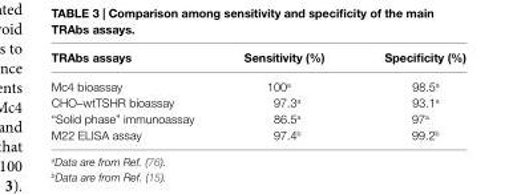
<table><thead><tr><td>TRAbs assays</td><td>Sensitivity (%)</td><td>Specificity (%)</td></tr></thead><tbody><tr><td>Mc4 bioassay</td><td>100<sup>a</sup></td><td>98.5<sup>a</sup></td></tr><tr><td>CHO–wtTSHR bioassay</td><td>97.3<sup>a</sup></td><td>93.1<sup>a</sup></td></tr><tr><td>“Solid phase” immunoassay</td><td>86.5<sup>a</sup></td><td>97<sup>a</sup></td></tr><tr><td>M22 ELISA assay</td><td>97.4<sup>b</sup></td><td>99.2<sup>b</sup></td></tr></tbody></table>